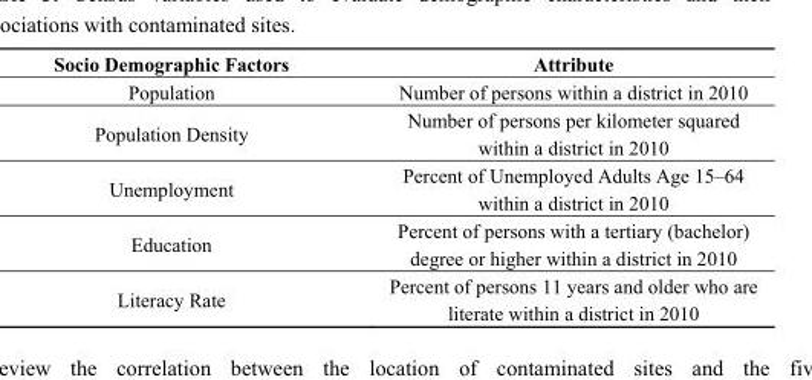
<table><thead><tr><td>Socio Demographic Factors</td><td>Attribute</td></tr></thead><tbody><tr><td>Population</td><td>Number of persons within a district in 2010</td></tr><tr><td>Population Density</td><td>Number of persons per kilometer squared within a district in 2010</td></tr><tr><td>Unemployment</td><td>Percent of Unemployed Adults Age 15–64 within a district in 2010</td></tr><tr><td>Education</td><td>Percent of persons with a tertiary (bachelor) degree or higher within a district in 2010</td></tr><tr><td>Literacy Rate</td><td>Percent of persons 11 years and older who are literate within a district in 2010</td></tr></tbody></table>